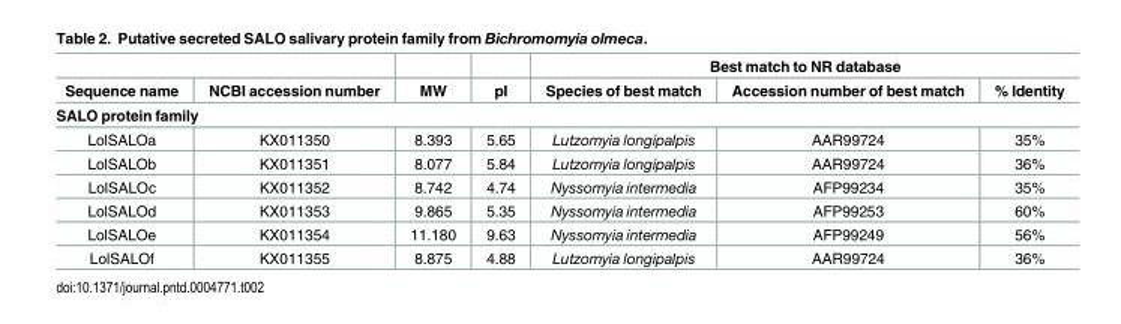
<table><thead><tr><td rowspan="2">Sequence name</td><td rowspan="2">NCBI accession number</td><td rowspan="2">MW</td><td rowspan="2">pI</td><td colspan="3">Best match to NR database</td></tr><tr><td>Species of best match</td><td>Accession number of best match</td><td>% Identity</td></tr><tr><td colspan="7">SALO protein family</td></tr></thead><tbody><tr><td>LolSALOa</td><td>KX011350</td><td>8.393</td><td>5.65</td><td>Lutzomyia longipalpis</td><td>AAR99724</td><td>35%</td></tr><tr><td>LolSALOb</td><td>KX011351</td><td>8.077</td><td>5.84</td><td>Lutzomyia longipalpis</td><td>AAR99724</td><td>36%</td></tr><tr><td>LolSALOc</td><td>KX011352</td><td>8.742</td><td>4.74</td><td>Nyssomyia intermedia</td><td>AFP99234</td><td>35%</td></tr><tr><td>LolSALOd</td><td>KX011353</td><td>9.865</td><td>5.35</td><td>Nyssomyia intermedia</td><td>AFP99253</td><td>60%</td></tr><tr><td>LolSALOe</td><td>KX011354</td><td>11.180</td><td>9.63</td><td>Nyssomyia intermedia</td><td>AFP99249</td><td>56%</td></tr><tr><td>LolSALOf</td><td>KX011355</td><td>8.875</td><td>4.88</td><td>Lutzomyia longipalpis</td><td>AAR99724</td><td>36%</td></tr></tbody></table>